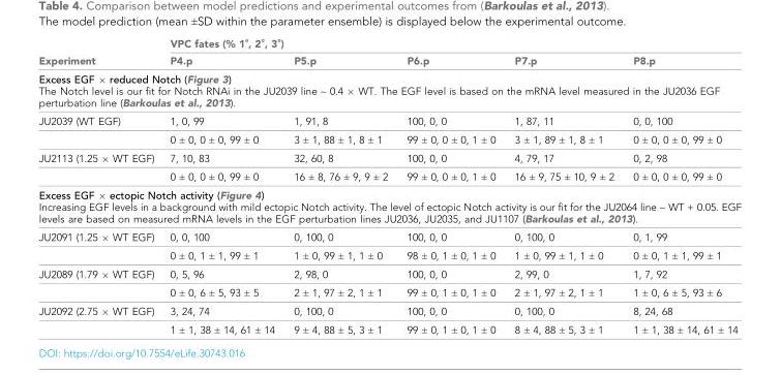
<table><thead><tr><td rowspan="2">Experiment</td><td colspan="5">VPC fates (% 1˚, 2˚, 3˚)</td></tr><tr><td>P4.p</td><td>P5.p</td><td>P6.p</td><td>P7.p</td><td>P8.p</td></tr></thead><tbody><tr><td colspan="6">Excess EGF × reduced Notch (Figure 3) The Notch level is our fit for Notch RNAi in the JU2039 line ~ 0.4 × WT. The EGF level is based on the mRNA level measured in the JU2036 EGF perturbation line (Barkoulas et al., 2013).</td></tr><tr><td rowspan="2">JU2039 (WT EGF)</td><td>1, 0, 99</td><td>1, 91, 8</td><td>100, 0, 0</td><td>1, 87, 11</td><td>0, 0, 100</td></tr><tr><td>0 ± 0, 0 ± 0, 99 ± 0</td><td>3 ± 1, 88 ± 1, 8 ± 1</td><td>99 ± 0, 0 ± 0, 1 ± 0</td><td>3 ± 1, 89 ± 1, 8 ± 1</td><td>0 ± 0, 0 ± 0, 99 ± 0</td></tr><tr><td rowspan="2">JU2113 (1.25 × WT EGF)</td><td>7, 10, 83</td><td>32, 60, 8</td><td>100, 0, 0</td><td>4, 79, 17</td><td>0, 2, 98</td></tr><tr><td>0 ± 0, 0 ± 0, 99 ± 0</td><td>16 ± 8, 76 ± 9, 9 ± 2</td><td>99 ± 0, 0 ± 0, 1 ± 0</td><td>16 ± 9, 75 ± 10, 9 ± 2</td><td>0 ± 0, 0 ± 0, 99 ± 0</td></tr><tr><td colspan="6">Excess EGF × ectopic Notch activity (Figure 4) Increasing EGF levels in a background with mild ectopic Notch activity. The level of ectopic Notch activity is our fit for the JU2064 line ~ WT + 0.05. EGF levels are based on measured mRNA levels in the EGF perturbation lines JU2036, JU2035, and JU1107 (Barkoulas et al., 2013).</td></tr><tr><td rowspan="2">JU2091 (1.25 × WT EGF)</td><td>0, 0, 100</td><td>0, 100, 0</td><td>100, 0, 0</td><td>0, 100, 0</td><td>0, 1, 99</td></tr><tr><td>0 ± 0, 1 ± 1, 99 ± 1</td><td>1 ± 0, 99 ± 1, 1 ± 0</td><td>98 ± 0, 1 ± 0, 1 ± 0</td><td>1 ± 0, 99 ± 1, 1 ± 0</td><td>0 ± 0, 1 ± 1, 99 ± 1</td></tr><tr><td rowspan="2">JU2089 (1.79 × WT EGF)</td><td>0, 5, 96</td><td>2, 98, 0</td><td>100, 0, 0</td><td>2, 99, 0</td><td>1, 7, 92</td></tr><tr><td>0 ± 0, 6 ± 5, 93 ± 5</td><td>2 ± 1, 97 ± 2, 1 ± 1</td><td>99 ± 0, 1 ± 0, 1 ± 0</td><td>2 ± 1, 97 ± 2, 1 ± 1</td><td>1 ± 0, 6 ± 5, 93 ± 6</td></tr><tr><td rowspan="2">JU2092 (2.75 × WT EGF)</td><td>3, 24, 74</td><td>0, 100, 0</td><td>100, 0, 0</td><td>0, 100, 0</td><td>8, 24, 68</td></tr><tr><td>1 ± 1, 38 ± 14, 61 ± 14</td><td>9 ± 4, 88 ± 5, 3 ± 1</td><td>99 ± 0, 1 ± 0, 1 ± 0</td><td>8 ± 4, 88 ± 5, 3 ± 1</td><td>1 ± 1, 38 ± 14, 61 ± 14</td></tr></tbody></table>